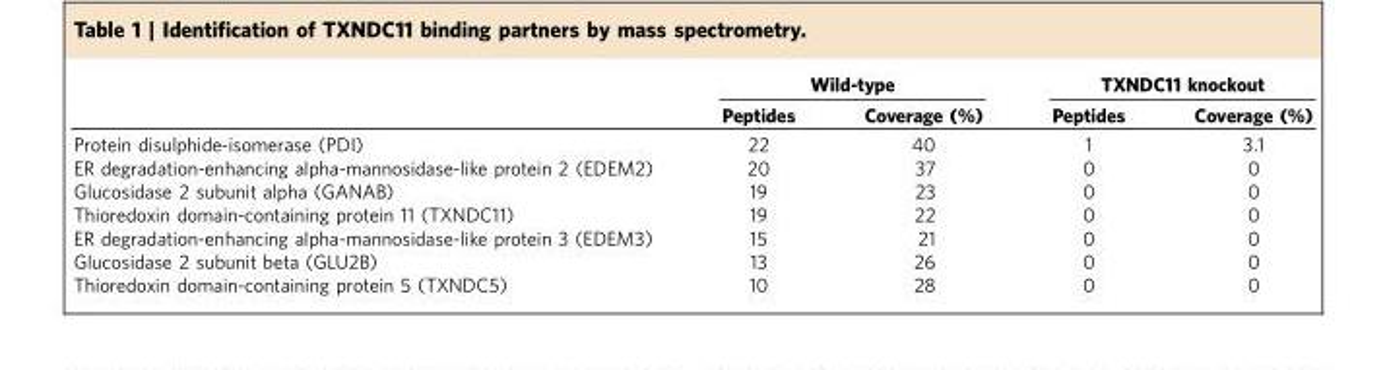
<table><thead><tr><td rowspan="2"></td><td colspan="2">Wild-type</td><td colspan="2">TXNDC11 knockout</td></tr><tr><td>Peptides</td><td>Coverage (%)</td><td>Peptides</td><td>Coverage (%)</td></tr></thead><tbody><tr><td>Protein disulphide-isomerase (PDI)</td><td>22</td><td>40</td><td>1</td><td>3.1</td></tr><tr><td>ER degradation-enhancing alpha-mannosidase-like protein 2 (EDEM2)</td><td>20</td><td>37</td><td>0</td><td>0</td></tr><tr><td>Glucosidase 2 subunit alpha (GANAB)</td><td>19</td><td>23</td><td>0</td><td>0</td></tr><tr><td>Thioredoxin domain-containing protein 11 (TXNDC11)</td><td>19</td><td>22</td><td>0</td><td>0</td></tr><tr><td>ER degradation-enhancing alpha-mannosidase-like protein 3 (EDEM3)</td><td>15</td><td>21</td><td>0</td><td>0</td></tr><tr><td>Glucosidase 2 subunit beta (GLU2B)</td><td>13</td><td>26</td><td>0</td><td>0</td></tr><tr><td>Thioredoxin domain-containing protein 5 (TXNDC5)</td><td>10</td><td>28</td><td>0</td><td>0</td></tr></tbody></table>